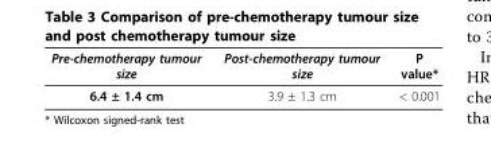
<table><thead><tr><td>Pre-chemotherapy tumour size</td><td>Post-chemotherapy tumour size</td><td>P value*</td></tr></thead><tbody><tr><td>6.4 ± 1.4 cm</td><td>3.9 ± 1.3 cm</td><td>&lt; 0.001</td></tr></tbody></table>